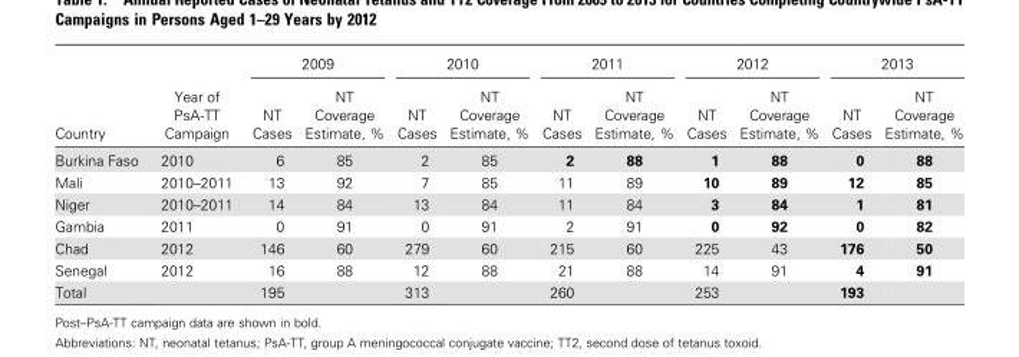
<table><thead><tr><td rowspan="2">Country</td><td rowspan="2">Year of PsA-TT Campaign</td><td colspan="2">2009</td><td colspan="2">2010</td><td colspan="2">2011</td><td colspan="2">2012</td><td colspan="2">2013</td></tr><tr><td>NT Cases</td><td>NT Coverage Estimate, %</td><td>NT Cases</td><td>NT Coverage Estimate, %</td><td>NT Cases</td><td>NT Coverage Estimate, %</td><td>NT Cases</td><td>NT Coverage Estimate, %</td><td>NT Cases</td><td>NT Coverage Estimate, %</td></tr></thead><tbody><tr><td>Burkina Faso</td><td>2010</td><td>6</td><td>85</td><td>2</td><td>85</td><td>2</td><td>88</td><td>1</td><td>88</td><td>0</td><td>88</td></tr><tr><td>Mali</td><td>2010–2011</td><td>13</td><td>92</td><td>7</td><td>85</td><td>11</td><td>89</td><td>10</td><td>89</td><td>12</td><td>85</td></tr><tr><td>Niger</td><td>2010–2011</td><td>14</td><td>84</td><td>13</td><td>84</td><td>11</td><td>84</td><td>3</td><td>84</td><td>1</td><td>81</td></tr><tr><td>Gambia</td><td>2011</td><td>0</td><td>91</td><td>0</td><td>91</td><td>2</td><td>91</td><td>0</td><td>92</td><td>0</td><td>82</td></tr><tr><td>Chad</td><td>2012</td><td>146</td><td>60</td><td>279</td><td>60</td><td>215</td><td>60</td><td>225</td><td>43</td><td>176</td><td>50</td></tr><tr><td>Senegal</td><td>2012</td><td>16</td><td>88</td><td>12</td><td>88</td><td>21</td><td>88</td><td>14</td><td>91</td><td>4</td><td>91</td></tr><tr><td>Total</td><td></td><td>195</td><td></td><td>313</td><td></td><td>260</td><td></td><td>253</td><td></td><td>193</td><td></td></tr></tbody></table>